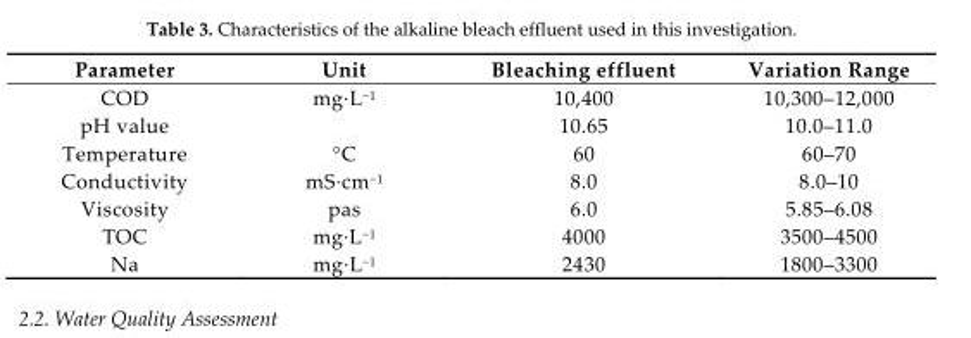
<table><thead><tr><td>Parameter</td><td>Unit</td><td>Bleaching effluent</td><td>Variation Range</td></tr></thead><tbody><tr><td>COD</td><td>mg·L<sup>−1</sup></td><td>10,400</td><td>10,300–12,000</td></tr><tr><td>pH value</td><td></td><td>10.65</td><td>10.0–11.0</td></tr><tr><td>Temperature</td><td>°C</td><td>60</td><td>60–70</td></tr><tr><td>Conductivity</td><td>mS·cm<sup>−1</sup></td><td>8.0</td><td>8.0–10</td></tr><tr><td>Viscosity</td><td>pas</td><td>6.0</td><td>5.85–6.08</td></tr><tr><td>TOC</td><td>mg·L<sup>−1</sup></td><td>4000</td><td>3500–4500</td></tr><tr><td>Na</td><td>mg·L<sup>−1</sup></td><td>2430</td><td>1800–3300</td></tr></tbody></table>